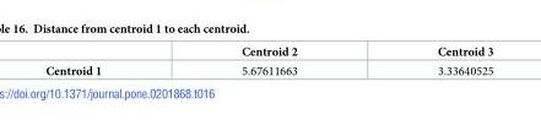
<table><thead><tr><td></td><td>Centroid 2</td><td>Centroid 3</td></tr></thead><tbody><tr><td>Centroid 1</td><td>5.67611663</td><td>3.33640525</td></tr></tbody></table>